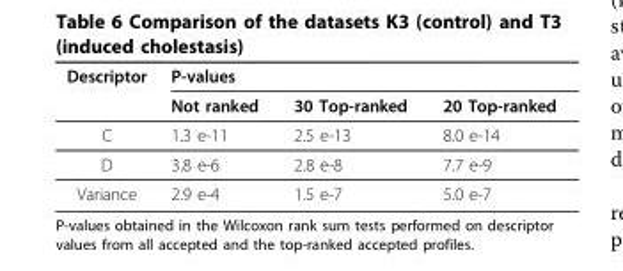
<table><thead><tr><td rowspan="2">Descriptor</td><td colspan="3">P-values</td></tr><tr><td>Not ranked</td><td>30 Top-ranked</td><td>20 Top-ranked</td></tr></thead><tbody><tr><td>C</td><td>1.3 e-11</td><td>2.5 e-13</td><td>8.0 e-14</td></tr><tr><td>D</td><td>3.8 e-6</td><td>2.8 e-8</td><td>7.7 e-9</td></tr><tr><td>Variance</td><td>2.9 e-4</td><td>1.5 e-7</td><td>5.0 e-7</td></tr></tbody></table>